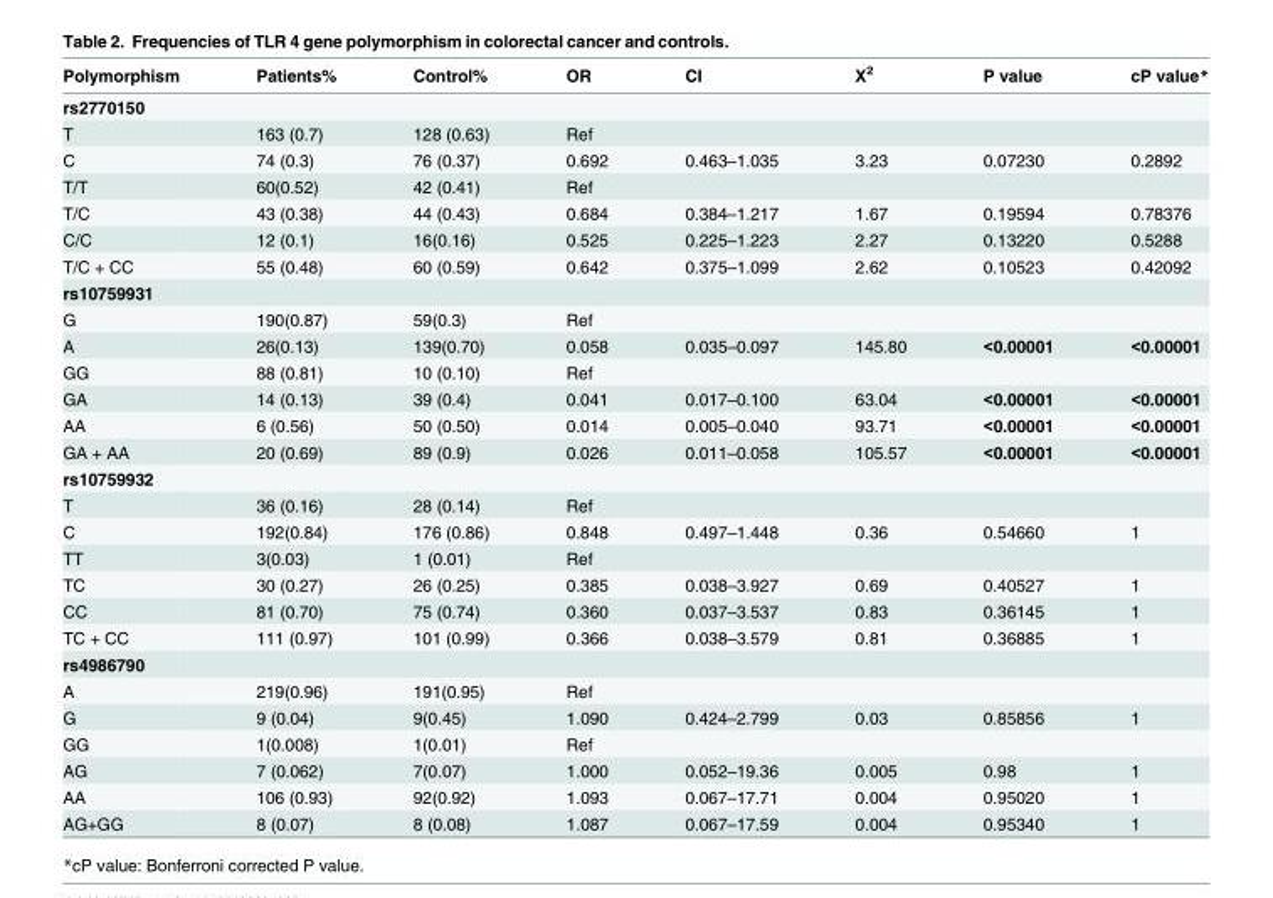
<table><thead><tr><td>Polymorphism</td><td>Patients%</td><td>Control%</td><td>OR</td><td>CI</td><td>X<sup>2</sup></td><td>P value</td><td>cP value*</td></tr></thead><tbody><tr><td colspan="8">rs2770150</td></tr><tr><td>T</td><td>163 (0.7)</td><td>128 (0.63)</td><td>Ref</td><td></td><td></td><td></td><td></td></tr><tr><td>C</td><td>74 (0.3)</td><td>76 (0.37)</td><td>0.692</td><td>0.463–1.035</td><td>3.23</td><td>0.07230</td><td>0.2892</td></tr><tr><td>T/T</td><td>60(0.52)</td><td>42 (0.41)</td><td>Ref</td><td></td><td></td><td></td><td></td></tr><tr><td>T/C</td><td>43 (0.38)</td><td>44 (0.43)</td><td>0.684</td><td>0.384–1.217</td><td>1.67</td><td>0.19594</td><td>0.78376</td></tr><tr><td>C/C</td><td>12 (0.1)</td><td>16(0.16)</td><td>0.525</td><td>0.225–1.223</td><td>2.27</td><td>0.13220</td><td>0.5288</td></tr><tr><td>T/C + CC</td><td>55 (0.48)</td><td>60 (0.59)</td><td>0.642</td><td>0.375–1.099</td><td>2.62</td><td>0.10523</td><td>0.42092</td></tr><tr><td colspan="8">rs10759931</td></tr><tr><td>G</td><td>190(0.87)</td><td>59(0.3)</td><td>Ref</td><td></td><td></td><td></td><td></td></tr><tr><td>A</td><td>26(0.13)</td><td>139(0.70)</td><td>0.058</td><td>0.035–0.097</td><td>145.80</td><td>&lt;0.00001</td><td>&lt;0.00001</td></tr><tr><td>GG</td><td>88 (0.81)</td><td>10 (0.10)</td><td>Ref</td><td></td><td></td><td></td><td></td></tr><tr><td>GA</td><td>14 (0.13)</td><td>39 (0.4)</td><td>0.041</td><td>0.017–0.100</td><td>63.04</td><td>&lt;0.00001</td><td>&lt;0.00001</td></tr><tr><td>AA</td><td>6 (0.56)</td><td>50 (0.50)</td><td>0.014</td><td>0.005–0.040</td><td>93.71</td><td>&lt;0.00001</td><td>&lt;0.00001</td></tr><tr><td>GA + AA</td><td>20 (0.69)</td><td>89 (0.9)</td><td>0.026</td><td>0.011–0.058</td><td>105.57</td><td>&lt;0.00001</td><td>&lt;0.00001</td></tr><tr><td colspan="8">rs10759932</td></tr><tr><td>T</td><td>36 (0.16)</td><td>28 (0.14)</td><td>Ref</td><td></td><td></td><td></td><td></td></tr><tr><td>C</td><td>192(0.84)</td><td>176 (0.86)</td><td>0.848</td><td>0.497–1.448</td><td>0.36</td><td>0.54660</td><td>1</td></tr><tr><td>TT</td><td>3(0.03)</td><td>1 (0.01)</td><td>Ref</td><td></td><td></td><td></td><td></td></tr><tr><td>TC</td><td>30 (0.27)</td><td>26 (0.25)</td><td>0.385</td><td>0.038–3.927</td><td>0.69</td><td>0.40527</td><td>1</td></tr><tr><td>CC</td><td>81 (0.70)</td><td>75 (0.74)</td><td>0.360</td><td>0.037–3.537</td><td>0.83</td><td>0.36145</td><td>1</td></tr><tr><td>TC + CC</td><td>111 (0.97)</td><td>101 (0.99)</td><td>0.366</td><td>0.038–3.579</td><td>0.81</td><td>0.36885</td><td>1</td></tr><tr><td colspan="8">rs4986790</td></tr><tr><td>A</td><td>219(0.96)</td><td>191(0.95)</td><td>Ref</td><td></td><td></td><td></td><td></td></tr><tr><td>G</td><td>9 (0.04)</td><td>9(0.45)</td><td>1.090</td><td>0.424–2.799</td><td>0.03</td><td>0.85856</td><td>1</td></tr><tr><td>GG</td><td>1(0.008)</td><td>1(0.01)</td><td>Ref</td><td></td><td></td><td></td><td></td></tr><tr><td>AG</td><td>7 (0.062)</td><td>7(0.07)</td><td>1.000</td><td>0.052–19.36</td><td>0.005</td><td>0.98</td><td>1</td></tr><tr><td>AA</td><td>106 (0.93)</td><td>92(0.92)</td><td>1.093</td><td>0.067–17.71</td><td>0.004</td><td>0.95020</td><td>1</td></tr><tr><td>AG+GG</td><td>8 (0.07)</td><td>8 (0.08)</td><td>1.087</td><td>0.067–17.59</td><td>0.004</td><td>0.95340</td><td>1</td></tr></tbody></table>